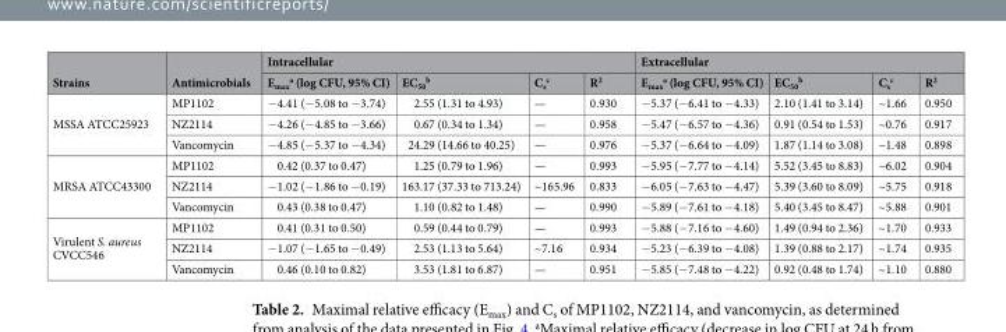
<table><thead><tr><td rowspan="2">Strains</td><td rowspan="2">Antimicrobials</td><td colspan="4">Intracellular</td><td colspan="4">Extracellular</td></tr><tr><td>E<sub>max</sub> <sup>a</sup> (log CFU, 95% CI)</td><td>EC<sub>50</sub> <sup>b</sup></td><td>C<sub>s</sub> <sup>c</sup></td><td>R<sup>2</sup></td><td>E<sub>max</sub> <sup>a</sup> (log CFU, 95% CI)</td><td>EC<sub>50</sub> <sup>b</sup></td><td>C<sub>s</sub> <sup>c</sup></td><td>R<sup>2</sup></td></tr></thead><tbody><tr><td rowspan="3">MSSA ATCC25923</td><td>MP1102</td><td>−4.41 (−5.08 to −3.74)</td><td>2.55 (1.31 to 4.93)</td><td>—</td><td>0.930</td><td>−5.37 (−6.41 to −4.33)</td><td>2.10 (1.41 to 3.14)</td><td>~1.66</td><td>0.950</td></tr><tr><td>NZ2114</td><td>−4.26 (−4.85 to −3.66)</td><td>0.67 (0.34 to 1.34)</td><td>—</td><td>0.958</td><td>−5.47 (−6.57 to −4.36)</td><td>0.91 (0.54 to 1.53)</td><td>~0.76</td><td>0.917</td></tr><tr><td>Vancomycin</td><td>−4.85 (−5.37 to −4.34)</td><td>24.29 (14.66 to 40.25)</td><td>—</td><td>0.976</td><td>−5.37 (−6.64 to −4.09)</td><td>1.87 (1.14 to 3.08)</td><td>~1.48</td><td>0.898</td></tr><tr><td rowspan="3">MRSA ATCC43300</td><td>MP1102</td><td>0.42 (0.37 to 0.47)</td><td>1.25 (0.79 to 1.96)</td><td>—</td><td>0.993</td><td>−5.95 (−7.77 to −4.14)</td><td>5.52 (3.45 to 8.83)</td><td>~6.02</td><td>0.904</td></tr><tr><td>NZ2114</td><td>−1.02 (−1.86 to −0.19)</td><td>163.17 (37.33 to 713.24)</td><td>~165.96</td><td>0.833</td><td>−6.05 (−7.63 to −4.47)</td><td>5.39 (3.60 to 8.09)</td><td>~5.75</td><td>0.918</td></tr><tr><td>Vancomycin</td><td>0.43 (0.38 to 0.47)</td><td>1.10 (0.82 to 1.48)</td><td>—</td><td>0.990</td><td>−5.89 (−7.61 to −4.18)</td><td>5.40 (3.45 to 8.47)</td><td>~5.88</td><td>0.901</td></tr><tr><td rowspan="3">Virulent S. aureus CVCC546</td><td>MP1102</td><td>0.41 (0.31 to 0.50)</td><td>0.59 (0.44 to 0.79)</td><td>—</td><td>0.993</td><td>−5.88 (−7.16 to −4.60)</td><td>1.49 (0.94 to 2.36)</td><td>~1.70</td><td>0.933</td></tr><tr><td>NZ2114</td><td>−1.07 (−1.65 to −0.49)</td><td>2.53 (1.13 to 5.64)</td><td>~7.16</td><td>0.934</td><td>−5.23 (−6.39 to −4.08)</td><td>1.39 (0.88 to 2.17)</td><td>~1.74</td><td>0.935</td></tr><tr><td>Vancomycin</td><td>0.46 (0.10 to 0.82)</td><td>3.53 (1.81 to 6.87)</td><td>—</td><td>0.951</td><td>−5.85 (−7.48 to −4.22)</td><td>0.92 (0.48 to 1.74)</td><td>~1.10</td><td>0.880</td></tr></tbody></table>